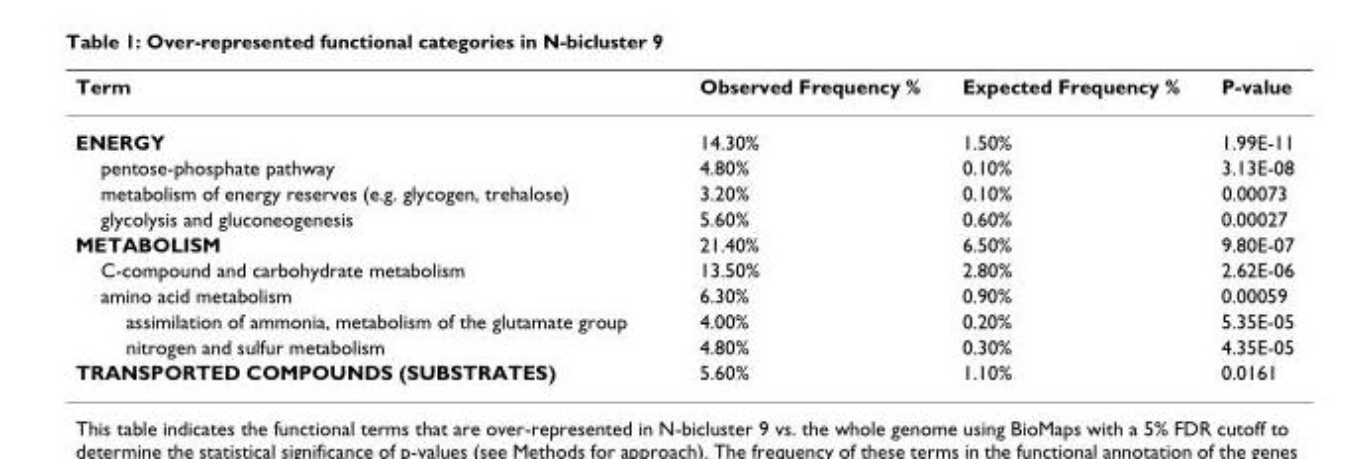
<table><thead><tr><td>Term</td><td>Observed Frequency %</td><td>Expected Frequency %</td><td>P-value</td></tr></thead><tbody><tr><td>ENERGY</td><td>14.30%</td><td>1.50%</td><td>1.99E-11</td></tr><tr><td>pentose-phosphate pathway</td><td>4.80%</td><td>0.10%</td><td>3.13E-08</td></tr><tr><td>metabolism of energy reserves (e.g. glycogen, trehalose)</td><td>3.20%</td><td>0.10%</td><td>0.00073</td></tr><tr><td>glycolysis and gluconeogenesis</td><td>5.60%</td><td>0.60%</td><td>0.00027</td></tr><tr><td>METABOLISM</td><td>21.40%</td><td>6.50%</td><td>9.80E-07</td></tr><tr><td>C-compound and carbohydrate metabolism</td><td>13.50%</td><td>2.80%</td><td>2.62E-06</td></tr><tr><td>amino acid metabolism</td><td>6.30%</td><td>0.90%</td><td>0.00059</td></tr><tr><td>assimilation of ammonia, metabolism of the glutamate group</td><td>4.00%</td><td>0.20%</td><td>5.35E-05</td></tr><tr><td>nitrogen and sulfur metabolism</td><td>4.80%</td><td>0.30%</td><td>4.35E-05</td></tr><tr><td>TRANSPORTED COMPOUNDS (SUBSTRATES)</td><td>5.60%</td><td>1.10%</td><td>0.0161</td></tr></tbody></table>